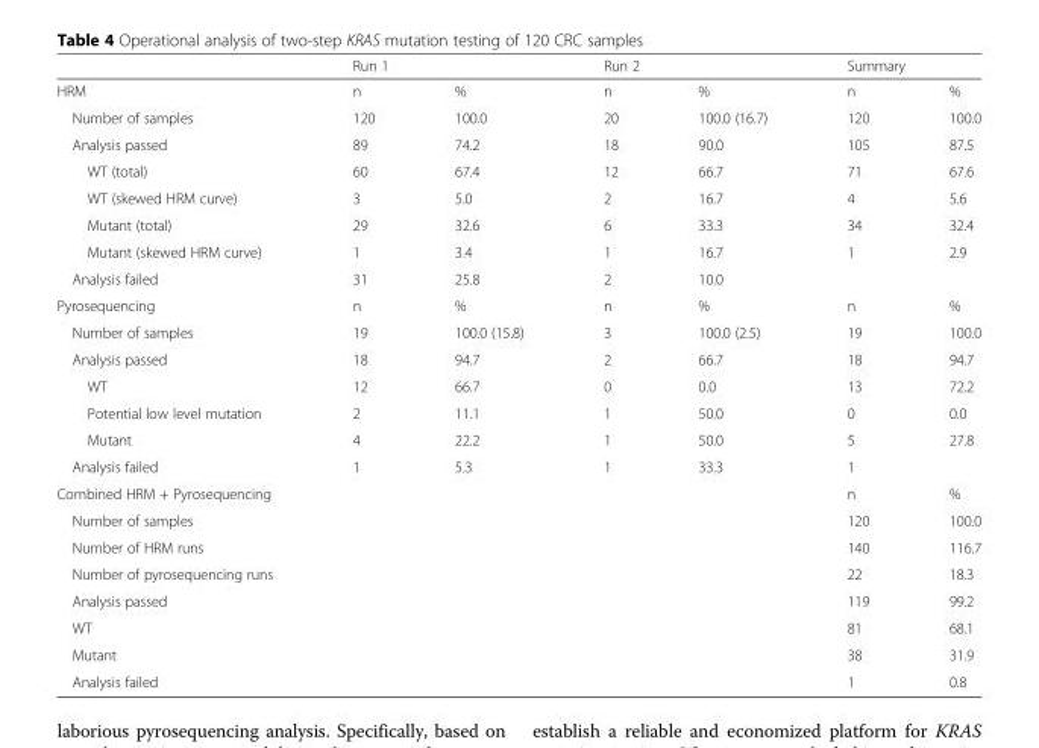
<table><thead><tr><td rowspan="2">HRM</td><td colspan="2">Run 1</td><td colspan="2">Run 2</td><td colspan="2">Summary</td></tr><tr><td>n</td><td>%</td><td>n</td><td>%</td><td>n</td><td>%</td></tr></thead><tbody><tr><td>Number of samples</td><td>120</td><td>100.0</td><td>20</td><td>100.0 (16.7)</td><td>120</td><td>100.0</td></tr><tr><td>Analysis passed</td><td>89</td><td>74.2</td><td>18</td><td>90.0</td><td>105</td><td>87.5</td></tr><tr><td>WT (total)</td><td>60</td><td>67.4</td><td>12</td><td>66.7</td><td>71</td><td>67.6</td></tr><tr><td>WT (skewed HRM curve)</td><td>3</td><td>5.0</td><td>2</td><td>16.7</td><td>4</td><td>5.6</td></tr><tr><td>Mutant (total)</td><td>29</td><td>32.6</td><td>6</td><td>33.3</td><td>34</td><td>32.4</td></tr><tr><td>Mutant (skewed HRM curve)</td><td>1</td><td>3.4</td><td>1</td><td>16.7</td><td>1</td><td>2.9</td></tr><tr><td>Analysis failed</td><td>31</td><td>25.8</td><td>2</td><td>10.0</td><td></td><td></td></tr><tr><td>Pyrosequencing</td><td>n</td><td>%</td><td>n</td><td>%</td><td>n</td><td>%</td></tr><tr><td>Number of samples</td><td>19</td><td>100.0 (15.8)</td><td>3</td><td>100.0 (2.5)</td><td>19</td><td>100.0</td></tr><tr><td>Analysis passed</td><td>18</td><td>94.7</td><td>2</td><td>66.7</td><td>18</td><td>94.7</td></tr><tr><td>WT</td><td>12</td><td>66.7</td><td>0</td><td>0.0</td><td>13</td><td>72.2</td></tr><tr><td>Potential low level mutation</td><td>2</td><td>11.1</td><td>1</td><td>50.0</td><td>0</td><td>0.0</td></tr><tr><td>Mutant</td><td>4</td><td>22.2</td><td>1</td><td>50.0</td><td>5</td><td>27.8</td></tr><tr><td>Analysis failed</td><td>1</td><td>5.3</td><td>1</td><td>33.3</td><td>1</td><td></td></tr><tr><td>Combined HRM + Pyrosequencing</td><td></td><td></td><td></td><td></td><td>n</td><td>%</td></tr><tr><td>Number of samples</td><td></td><td></td><td></td><td></td><td>120</td><td>100.0</td></tr><tr><td>Number of HRM runs</td><td></td><td></td><td></td><td></td><td>140</td><td>116.7</td></tr><tr><td>Number of pyrosequencing runs</td><td></td><td></td><td></td><td></td><td>22</td><td>18.3</td></tr><tr><td>Analysis passed</td><td></td><td></td><td></td><td></td><td>119</td><td>99.2</td></tr><tr><td>WT</td><td></td><td></td><td></td><td></td><td>81</td><td>68.1</td></tr><tr><td>Mutant</td><td></td><td></td><td></td><td></td><td>38</td><td>31.9</td></tr><tr><td>Analysis failed</td><td></td><td></td><td></td><td></td><td>1</td><td>0.8</td></tr></tbody></table>